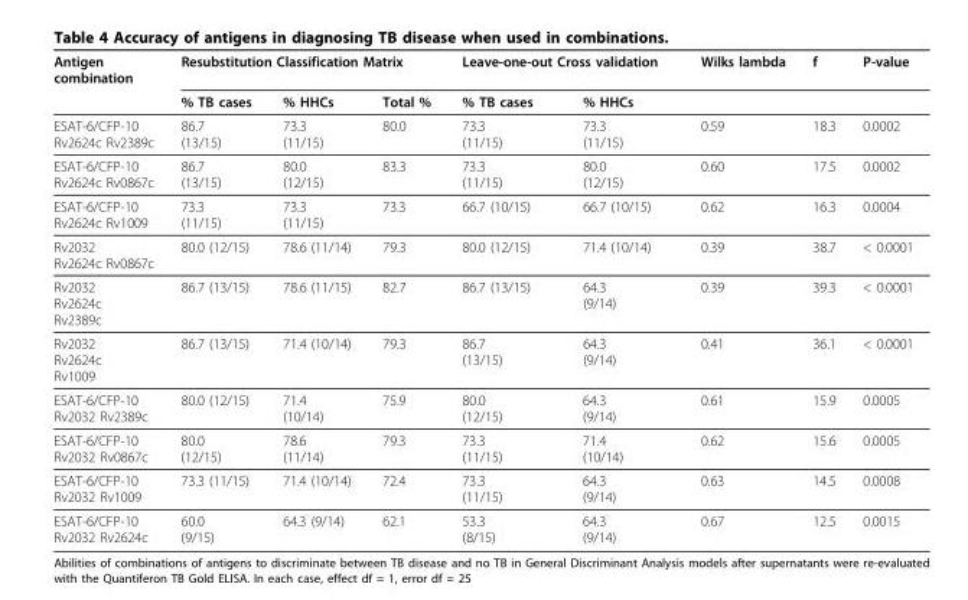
<table><thead><tr><td rowspan="2">Antigen combination</td><td colspan="3">Resubstitution Classification Matrix</td><td colspan="2">Leave-one-out Cross validation</td><td rowspan="2">Wilks lambda</td><td rowspan="2">f</td><td rowspan="2">P-value</td></tr><tr><td>% TB cases</td><td>% HHCs</td><td>Total %</td><td>% TB cases</td><td>% HHCs</td></tr></thead><tbody><tr><td>ESAT-6/CFP-10 Rv2624c Rv2389c</td><td>86.7 (13/15)</td><td>73.3 (11/15)</td><td>80.0</td><td>73.3 (11/15)</td><td>73.3 (11/15)</td><td>0.59</td><td>18.3</td><td>0.0002</td></tr><tr><td>ESAT-6/CFP-10 Rv2624c Rv0867c</td><td>86.7 (13/15)</td><td>80.0 (12/15)</td><td>83.3</td><td>73.3 (11/15)</td><td>80.0 (12/15)</td><td>0.60</td><td>17.5</td><td>0.0002</td></tr><tr><td>ESAT-6/CFP-10 Rv2624c Rv1009</td><td>73.3 (11/15)</td><td>73.3 (11/15)</td><td>73.3</td><td>66.7 (10/15)</td><td>66.7 (10/15)</td><td>0.62</td><td>16.3</td><td>0.0004</td></tr><tr><td>Rv2032 Rv2624c Rv0867c</td><td>80.0 (12/15)</td><td>78.6 (11/14)</td><td>79.3</td><td>80.0 (12/15)</td><td>71.4 (10/14)</td><td>0.39</td><td>38.7</td><td>&lt; 0.0001</td></tr><tr><td>Rv2032 Rv2624c Rv2389c</td><td>86.7 (13/15)</td><td>78.6 (11/15)</td><td>82.7</td><td>86.7 (13/15)</td><td>64.3 (9/14)</td><td>0.39</td><td>39.3</td><td>&lt; 0.0001</td></tr><tr><td>Rv2032 Rv2624c Rv1009</td><td>86.7 (13/15)</td><td>71.4 (10/14)</td><td>79.3</td><td>86.7 (13/15)</td><td>64.3 (9/14)</td><td>0.41</td><td>36.1</td><td>&lt; 0.0001</td></tr><tr><td>ESAT-6/CFP-10 Rv2032 Rv2389c</td><td>80.0 (12/15)</td><td>71.4 (10/14)</td><td>75.9</td><td>80.0 (12/15)</td><td>64.3 (9/14)</td><td>0.61</td><td>15.9</td><td>0.0005</td></tr><tr><td>ESAT-6/CFP-10 Rv2032 Rv0867c</td><td>80.0 (12/15)</td><td>78.6 (11/14)</td><td>79.3</td><td>73.3 (11/15)</td><td>71.4 (10/14)</td><td>0.62</td><td>15.6</td><td>0.0005</td></tr><tr><td>ESAT-6/CFP-10 Rv2032 Rv1009</td><td>73.3 (11/15)</td><td>71.4 (10/14)</td><td>72.4</td><td>73.3 (11/15)</td><td>64.3 (9/14)</td><td>0.63</td><td>14.5</td><td>0.0008</td></tr><tr><td>ESAT-6/CFP-10 Rv2032 Rv2624c</td><td>60.0 (9/15)</td><td>64.3 (9/14)</td><td>62.1</td><td>53.3 (8/15)</td><td>64.3 (9/14)</td><td>0.67</td><td>12.5</td><td>0.0015</td></tr></tbody></table>